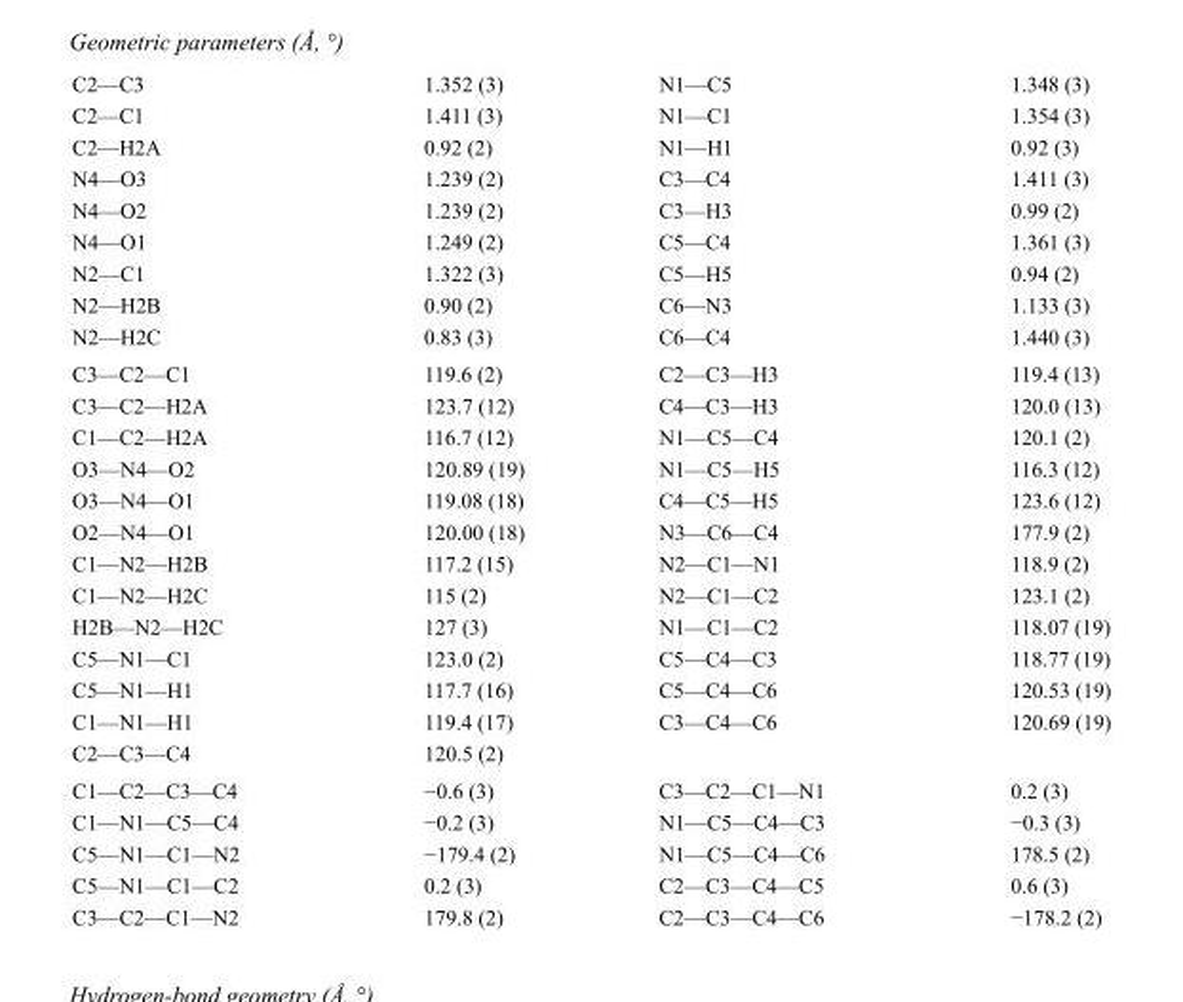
<table><tbody><tr><td>C2—C3</td><td>1.352 (3)</td><td>N1—C5</td><td>1.348 (3)</td></tr><tr><td>C2—C1</td><td>1.411 (3)</td><td>N1—C1</td><td>1.354 (3)</td></tr><tr><td>C2—H2A</td><td>0.92 (2)</td><td>N1—H1</td><td>0.92 (3)</td></tr><tr><td>N4—O3</td><td>1.239 (2)</td><td>C3—C4</td><td>1.411 (3)</td></tr><tr><td>N4—O2</td><td>1.239 (2)</td><td>C3—H3</td><td>0.99 (2)</td></tr><tr><td>N4—O1</td><td>1.249 (2)</td><td>C5—C4</td><td>1.361 (3)</td></tr><tr><td>N2—C1</td><td>1.322 (3)</td><td>C5—H5</td><td>0.94 (2)</td></tr><tr><td>N2—H2B</td><td>0.90 (2)</td><td>C6—N3</td><td>1.133 (3)</td></tr><tr><td>N2—H2C</td><td>0.83 (3)</td><td>C6—C4</td><td>1.440 (3)</td></tr><tr><td>C3—C2—C1</td><td>119.6 (2)</td><td>C2—C3—H3</td><td>119.4 (13)</td></tr><tr><td>C3—C2—H2A</td><td>123.7 (12)</td><td>C4—C3—H3</td><td>120.0 (13)</td></tr><tr><td>C1—C2—H2A</td><td>116.7 (12)</td><td>N1—C5—C4</td><td>120.1 (2)</td></tr><tr><td>O3—N4—O2</td><td>120.89 (19)</td><td>N1—C5—H5</td><td>116.3 (12)</td></tr><tr><td>O3—N4—O1</td><td>119.08 (18)</td><td>C4—C5—H5</td><td>123.6 (12)</td></tr><tr><td>O2—N4—O1</td><td>120.00 (18)</td><td>N3—C6—C4</td><td>177.9 (2)</td></tr><tr><td>C1—N2—H2B</td><td>117.2 (15)</td><td>N2—C1—N1</td><td>118.9 (2)</td></tr><tr><td>C1—N2—H2C</td><td>115 (2)</td><td>N2—C1—C2</td><td>123.1 (2)</td></tr><tr><td>H2B—N2—H2C</td><td>127 (3)</td><td>N1—C1—C2</td><td>118.07 (19)</td></tr><tr><td>C5—N1—C1</td><td>123.0 (2)</td><td>C5—C4—C3</td><td>118.77 (19)</td></tr><tr><td>C5—N1—H1</td><td>117.7 (16)</td><td>C5—C4—C6</td><td>120.53 (19)</td></tr><tr><td>C1—N1—H1</td><td>119.4 (17)</td><td>C3—C4—C6</td><td>120.69 (19)</td></tr><tr><td>C2—C3—C4</td><td>120.5 (2)</td><td></td><td></td></tr><tr><td>C1—C2—C3—C4</td><td>−0.6 (3)</td><td>C3—C2—C1—N1</td><td>0.2 (3)</td></tr><tr><td>C1—N1—C5—C4</td><td>−0.2 (3)</td><td>N1—C5—C4—C3</td><td>−0.3 (3)</td></tr><tr><td>C5—N1—C1—N2</td><td>−179.4 (2)</td><td>N1—C5—C4—C6</td><td>178.5 (2)</td></tr><tr><td>C5—N1—C1—C2</td><td>0.2 (3)</td><td>C2—C3—C4—C5</td><td>0.6 (3)</td></tr><tr><td>C3—C2—C1—N2</td><td>179.8 (2)</td><td>C2—C3—C4—C6</td><td>−178.2 (2)</td></tr></tbody></table>